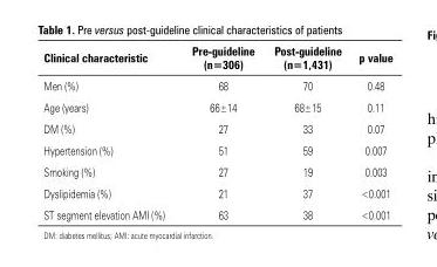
<table><thead><tr><td>clinical characteristic</td><td>Pre-guideline (n=306)</td><td>Post-guideline (n=1,431)</td><td>p value</td></tr></thead><tbody><tr><td>Men (%)</td><td>68</td><td>70</td><td>0.48</td></tr><tr><td>Age (years)</td><td>66±14</td><td>68±15</td><td>0.11</td></tr><tr><td>DM (%)</td><td>27</td><td>33</td><td>0.07</td></tr><tr><td>Hypertension (%)</td><td>51</td><td>59</td><td>0.007</td></tr><tr><td>Smoking (%)</td><td>27</td><td>19</td><td>0.003</td></tr><tr><td>Dyslipidemia (%)</td><td>21</td><td>37</td><td>&lt;0.001</td></tr><tr><td>ST segment elevation AMI (%)</td><td>63</td><td>38</td><td>&lt;0.001</td></tr></tbody></table>